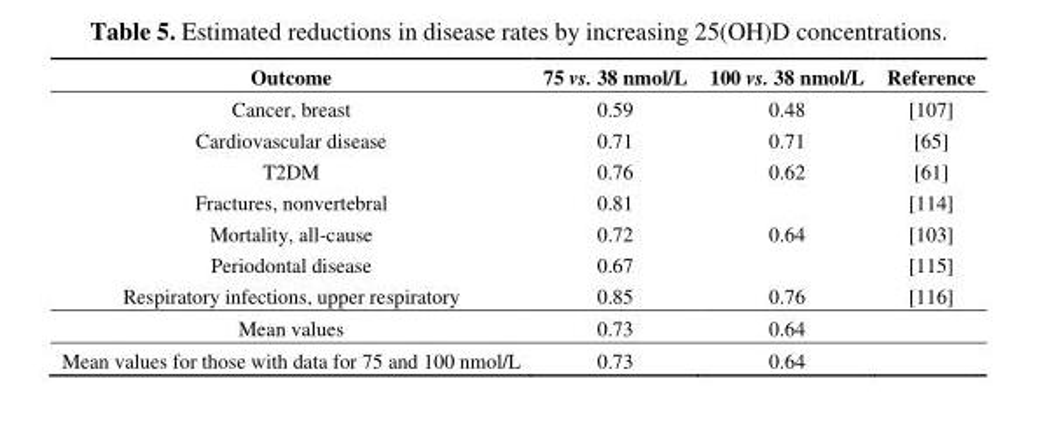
<table><thead><tr><td>Outcome</td><td>75 vs. 38 nmol/L</td><td>100 vs. 38 nmol/L</td><td>Reference</td></tr></thead><tbody><tr><td>Cancer, breast</td><td>0.59</td><td>0.48</td><td>[107]</td></tr><tr><td>Cardiovascular disease</td><td>0.71</td><td>0.71</td><td>[65]</td></tr><tr><td>T2DM</td><td>0.76</td><td>0.62</td><td>[61]</td></tr><tr><td>Fractures, nonvertebral</td><td>0.81</td><td></td><td>[114]</td></tr><tr><td>Mortality, all-cause</td><td>0.72</td><td>0.64</td><td>[103]</td></tr><tr><td>Periodontal disease</td><td>0.67</td><td></td><td>[115]</td></tr><tr><td>Respiratory infections, upper respiratory</td><td>0.85</td><td>0.76</td><td>[116]</td></tr><tr><td>Mean values</td><td>0.73</td><td>0.64</td><td></td></tr><tr><td>Mean values for those with data for 75 and 100 nmol/L</td><td>0.73</td><td>0.64</td><td></td></tr></tbody></table>